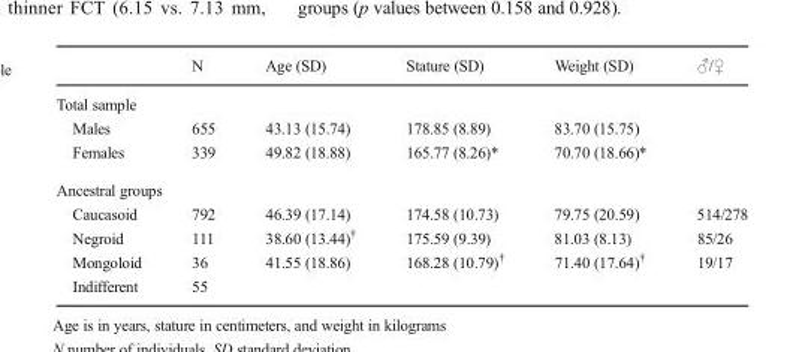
<table><thead><tr><td></td><td>N</td><td>Age (SD)</td><td>Stature (SD)</td><td>Weight (SD)</td><td>♂/♀</td></tr></thead><tbody><tr><td colspan="6">Total sample</td></tr><tr><td>Males</td><td>655</td><td>43.13 (15.74)</td><td>178.85 (8.89)</td><td>83.70 (15.75)</td><td></td></tr><tr><td>Females</td><td>339</td><td>49.82 (18.88)</td><td>165.77 (8.26)*</td><td>70.70 (18.66)*</td><td></td></tr><tr><td colspan="6">Ancestral groups</td></tr><tr><td>Caucasoid</td><td>792</td><td>46.39 (17.14)</td><td>174.58 (10.73)</td><td>79.75 (20.59)</td><td>514/278</td></tr><tr><td>Negroid</td><td>111</td><td>38.60 (13.44)†</td><td>175.59 (9.39)</td><td>81.03 (8.13)</td><td>85/26</td></tr><tr><td>Mongoloid</td><td>36</td><td>41.55 (18.86)</td><td>168.28 (10.79)†</td><td>71.40 (17.64)†</td><td>19/17</td></tr><tr><td>Indifferent</td><td>55</td><td></td><td></td><td></td><td></td></tr></tbody></table>